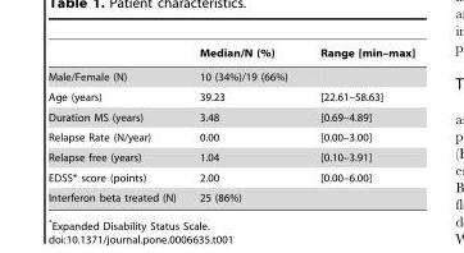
<table><thead><tr><td></td><td>Median/N (%)</td><td>Range [min–max]</td></tr></thead><tbody><tr><td>Male/Female (N)</td><td>10 (34%)/19 (66%)</td><td></td></tr><tr><td>Age (years)</td><td>39.23</td><td>[22.61–58.63]</td></tr><tr><td>Duration MS (years)</td><td>3.48</td><td>[0.69–4.89]</td></tr><tr><td>Relapse Rate (N/year)</td><td>0.00</td><td>[0.00–3.00]</td></tr><tr><td>Relapse free (years)</td><td>1.04</td><td>[0.10–3.91]</td></tr><tr><td>EDSS* score (points)</td><td>2.00</td><td>[0.00–6.00]</td></tr><tr><td>Interferon beta treated (N)</td><td>25 (86%)</td><td></td></tr></tbody></table>